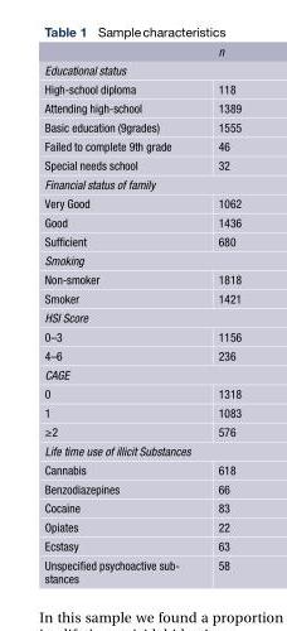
<table><thead><tr><td></td><td>n</td></tr></thead><tbody><tr><td colspan="2">Educational status</td></tr><tr><td>High-school diploma</td><td>118</td></tr><tr><td>Attending high-school</td><td>1389</td></tr><tr><td>Basic education (9grades)</td><td>1555</td></tr><tr><td>Failed to complete 9th grade</td><td>46</td></tr><tr><td>Special needs school</td><td>32</td></tr><tr><td colspan="2">Financial status of family</td></tr><tr><td>Very Good</td><td>1062</td></tr><tr><td>Good</td><td>1436</td></tr><tr><td>Sufficient</td><td>680</td></tr><tr><td colspan="2">Smoking</td></tr><tr><td>Non-smoker</td><td>1818</td></tr><tr><td>Smoker</td><td>1421</td></tr><tr><td colspan="2">HSI Score</td></tr><tr><td>0–3</td><td>1156</td></tr><tr><td>4–6</td><td>236</td></tr><tr><td colspan="2">CAGE</td></tr><tr><td>0</td><td>1318</td></tr><tr><td>1</td><td>1083</td></tr><tr><td>≥2</td><td>576</td></tr><tr><td colspan="2">Life time use of illicit Substances</td></tr><tr><td>Cannabis</td><td>618</td></tr><tr><td>Benzodiazepines</td><td>66</td></tr><tr><td>Cocaine</td><td>83</td></tr><tr><td>Opiates</td><td>22</td></tr><tr><td>Ecstasy</td><td>63</td></tr><tr><td>Unspecified psychoactive sub- stances</td><td>58</td></tr></tbody></table>